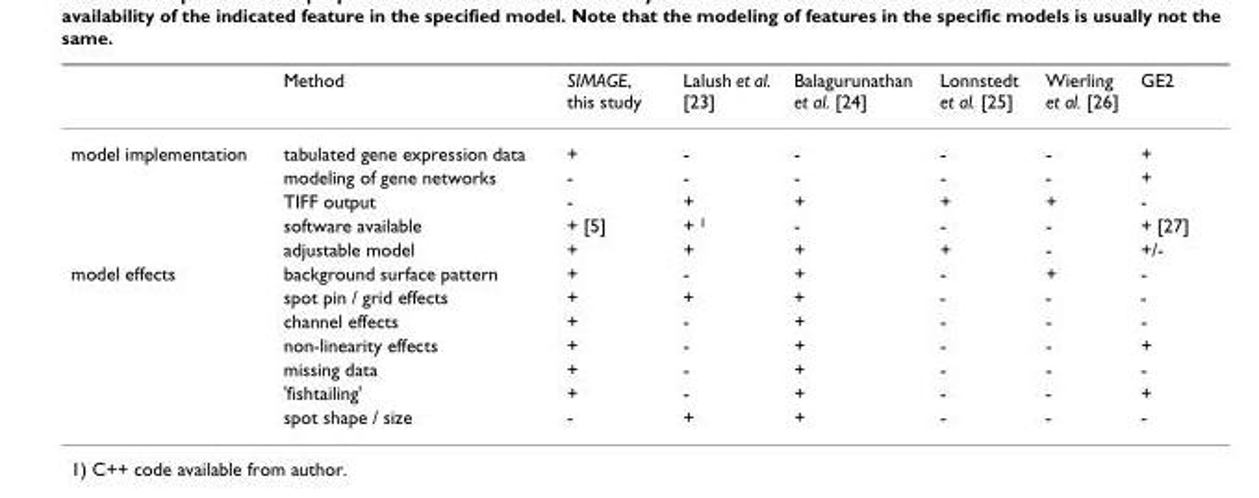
<table><thead><tr><td></td><td>Method</td><td>SIMAGE, this study</td><td>Lalush et al. [23]</td><td>Balagurunathan et al. [24]</td><td>Lonnstedt et al. [25]</td><td>Wierling et al. [26]</td><td>GE2</td></tr></thead><tbody><tr><td rowspan="5">model implementation</td><td>tabulated gene expression data</td><td>+</td><td>-</td><td>-</td><td>-</td><td>-</td><td>+</td></tr><tr><td>modeling of gene networks</td><td>-</td><td>-</td><td>-</td><td>-</td><td>-</td><td>+</td></tr><tr><td>TIFF output</td><td>-</td><td>+</td><td>+</td><td>+</td><td>+</td><td>-</td></tr><tr><td>software available</td><td>+ [5]</td><td>+ 1</td><td>-</td><td>-</td><td>-</td><td>+ [27]</td></tr><tr><td>adjustable model</td><td>+</td><td>+</td><td>+</td><td>+</td><td>-</td><td>+/-</td></tr><tr><td rowspan="7">model effects</td><td>background surface pattern</td><td>+</td><td>-</td><td>+</td><td>-</td><td>+</td><td>-</td></tr><tr><td>spot pin / grid effects</td><td>+</td><td>+</td><td>+</td><td>-</td><td>-</td><td>-</td></tr><tr><td>channel effects</td><td>+</td><td>-</td><td>+</td><td>-</td><td>-</td><td>-</td></tr><tr><td>non-linearity effects</td><td>+</td><td>-</td><td>+</td><td>-</td><td>-</td><td>+</td></tr><tr><td>missing data</td><td>+</td><td>-</td><td>+</td><td>-</td><td>-</td><td>-</td></tr><tr><td>&#x27;fishtailing&#x27;</td><td>+</td><td>-</td><td>+</td><td>-</td><td>-</td><td>+</td></tr><tr><td>spot shape / size</td><td>-</td><td>+</td><td>+</td><td>-</td><td>-</td><td>-</td></tr></tbody></table>